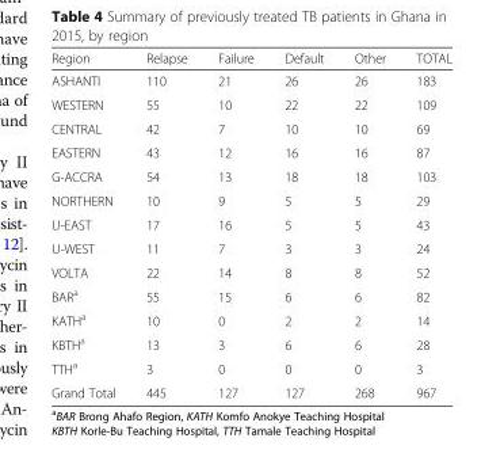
<table><thead><tr><td>Region</td><td>Relapse</td><td>Failure</td><td>Default</td><td>Other</td><td>TOTAL</td></tr></thead><tbody><tr><td>ASHANTI</td><td>110</td><td>21</td><td>26</td><td>26</td><td>183</td></tr><tr><td>WESTERN</td><td>55</td><td>10</td><td>22</td><td>22</td><td>109</td></tr><tr><td>CENTRAL</td><td>42</td><td>7</td><td>10</td><td>10</td><td>69</td></tr><tr><td>EASTERN</td><td>43</td><td>12</td><td>16</td><td>16</td><td>87</td></tr><tr><td>G-ACCRA</td><td>54</td><td>13</td><td>18</td><td>18</td><td>103</td></tr><tr><td>NORTHERN</td><td>10</td><td>9</td><td>5</td><td>5</td><td>29</td></tr><tr><td>U-EAST</td><td>17</td><td>16</td><td>5</td><td>5</td><td>43</td></tr><tr><td>U-WEST</td><td>11</td><td>7</td><td>3</td><td>3</td><td>24</td></tr><tr><td>VOLTA</td><td>22</td><td>14</td><td>8</td><td>8</td><td>52</td></tr><tr><td>BAR<sup>a</sup></td><td>55</td><td>15</td><td>6</td><td>6</td><td>82</td></tr><tr><td>KATH<sup>a</sup></td><td>10</td><td>0</td><td>2</td><td>2</td><td>14</td></tr><tr><td>KBTH<sup>a</sup></td><td>13</td><td>3</td><td>6</td><td>6</td><td>28</td></tr><tr><td>TTH<sup>a</sup></td><td>3</td><td>0</td><td>0</td><td>0</td><td>3</td></tr><tr><td>Grand Total</td><td>445</td><td>127</td><td>127</td><td>268</td><td>967</td></tr></tbody></table>